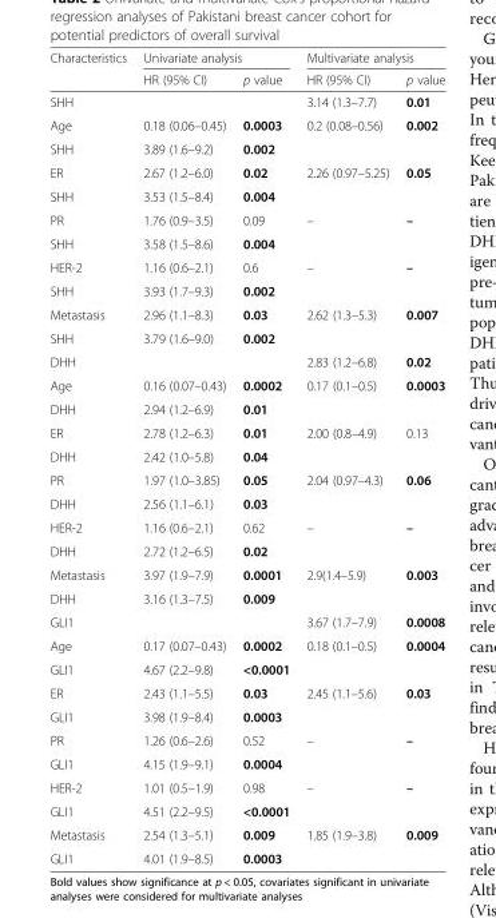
<table><thead><tr><td rowspan="2">Characteristics</td><td colspan="2">Univariate analysis</td><td colspan="2">Multivariate analysis</td></tr><tr><td>HR (95% CI)</td><td>p value</td><td>HR (95% CI)</td><td>p value</td></tr></thead><tbody><tr><td>SHH</td><td colspan="2"></td><td>3.14 (1.3–7.7)</td><td>0.01</td></tr><tr><td>Age</td><td>0.18 (0.06–0.45)</td><td>0.0003</td><td rowspan="2">0.2 (0.08–0.56)</td><td rowspan="2">0.002</td></tr><tr><td>SHH</td><td>3.89 (1.6–9.2)</td><td>0.002</td></tr><tr><td>ER</td><td>2.67 (1.2–6.0)</td><td>0.02</td><td rowspan="2">2.26 (0.97–5.25)</td><td rowspan="2">0.05</td></tr><tr><td>SHH</td><td>3.53 (1.5–8.4)</td><td>0.004</td></tr><tr><td>PR</td><td>1.76 (0.9–3.5)</td><td>0.09</td><td rowspan="2">–</td><td rowspan="2">–</td></tr><tr><td>SHH</td><td>3.58 (1.5–8.6)</td><td>0.004</td></tr><tr><td>HER-2</td><td>1.16 (0.6–2.1)</td><td>0.6</td><td rowspan="2">–</td><td rowspan="2">–</td></tr><tr><td>SHH</td><td>3.93 (1.7–9.3)</td><td>0.002</td></tr><tr><td>Metastasis</td><td>2.96 (1.1–8.3)</td><td>0.03</td><td rowspan="2">2.62 (1.3–5.3)</td><td rowspan="2">0.007</td></tr><tr><td>SHH</td><td>3.79 (1.6–9.0)</td><td>0.002</td></tr><tr><td>DHH</td><td colspan="2"></td><td>2.83 (1.2–6.8)</td><td>0.02</td></tr><tr><td>Age</td><td>0.16 (0.07–0.43)</td><td>0.0002</td><td rowspan="2">0.17 (0.1–0.5)</td><td rowspan="2">0.0003</td></tr><tr><td>DHH</td><td>2.94 (1.2–6.9)</td><td>0.01</td></tr><tr><td>ER</td><td>2.78 (1.2–6.3)</td><td>0.01</td><td rowspan="2">2.00 (0.8–4.9)</td><td rowspan="2">0.13</td></tr><tr><td>DHH</td><td>2.42 (1.0–5.8)</td><td>0.04</td></tr><tr><td>PR</td><td>1.97 (1.0–3.85)</td><td>0.05</td><td rowspan="2">2.04 (0.97–4.3)</td><td rowspan="2">0.06</td></tr><tr><td>DHH</td><td>2.56 (1.1–6.1)</td><td>0.03</td></tr><tr><td>HER-2</td><td>1.16 (0.6–2.1)</td><td>0.62</td><td rowspan="2">–</td><td rowspan="2">–</td></tr><tr><td>DHH</td><td>2.72 (1.2–6.5)</td><td>0.02</td></tr><tr><td>Metastasis</td><td>3.97 (1.9–7.9)</td><td>0.0001</td><td rowspan="2">2.9(1.4–5.9)</td><td rowspan="2">0.003</td></tr><tr><td>DHH</td><td>3.16 (1.3–7.5)</td><td>0.009</td></tr><tr><td>GLI1</td><td colspan="2"></td><td>3.67 (1.7–7.9)</td><td>0.0008</td></tr><tr><td>Age</td><td>0.17 (0.07–0.43)</td><td>0.0002</td><td rowspan="2">0.18 (0.1–0.5)</td><td rowspan="2">0.0004</td></tr><tr><td>GLI1</td><td>4.67 (2.2–9.8)</td><td>&lt;0.0001</td></tr><tr><td>ER</td><td>2.43 (1.1–5.5)</td><td>0.03</td><td rowspan="2">2.45 (1.1–5.6)</td><td rowspan="2">0.03</td></tr><tr><td>GLI1</td><td>3.98 (1.9–8.4)</td><td>0.0003</td></tr><tr><td>PR</td><td>1.26 (0.6–2.6)</td><td>0.52</td><td rowspan="2">–</td><td rowspan="2">–</td></tr><tr><td>GLI1</td><td>4.15 (1.9–9.1)</td><td>0.0004</td></tr><tr><td>HER-2</td><td>1.01 (0.5–1.9)</td><td>0.98</td><td rowspan="2">–</td><td rowspan="2">–</td></tr><tr><td>GLI1</td><td>4.51 (2.2–9.5)</td><td>&lt;0.0001</td></tr><tr><td>Metastasis</td><td>2.54 (1.3–5.1)</td><td>0.009</td><td rowspan="2">1.85 (1.9–3.8)</td><td rowspan="2">0.009</td></tr><tr><td>GLI1</td><td>4.01 (1.9–8.5)</td><td>0.0003</td></tr></tbody></table>